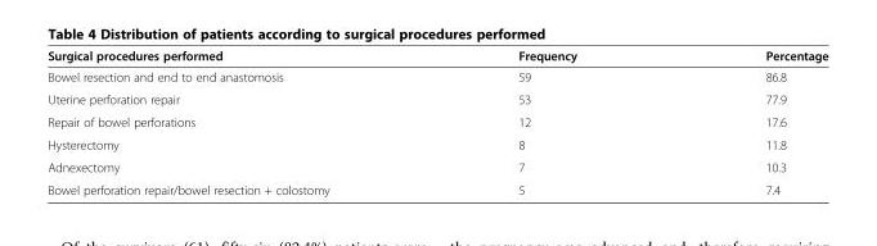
<table><thead><tr><td>Surgical procedures performed</td><td>Frequency</td><td>Percentage</td></tr></thead><tbody><tr><td>Bowel resection and end to end anastomosis</td><td>59</td><td>86.8</td></tr><tr><td>Uterine perforation repair</td><td>53</td><td>77.9</td></tr><tr><td>Repair of bowel perforations</td><td>12</td><td>17.6</td></tr><tr><td>Hysterectomy</td><td>8</td><td>11.8</td></tr><tr><td>Adnexectomy</td><td>7</td><td>10.3</td></tr><tr><td>Bowel perforation repair/bowel resection + colostomy</td><td>5</td><td>7.4</td></tr></tbody></table>